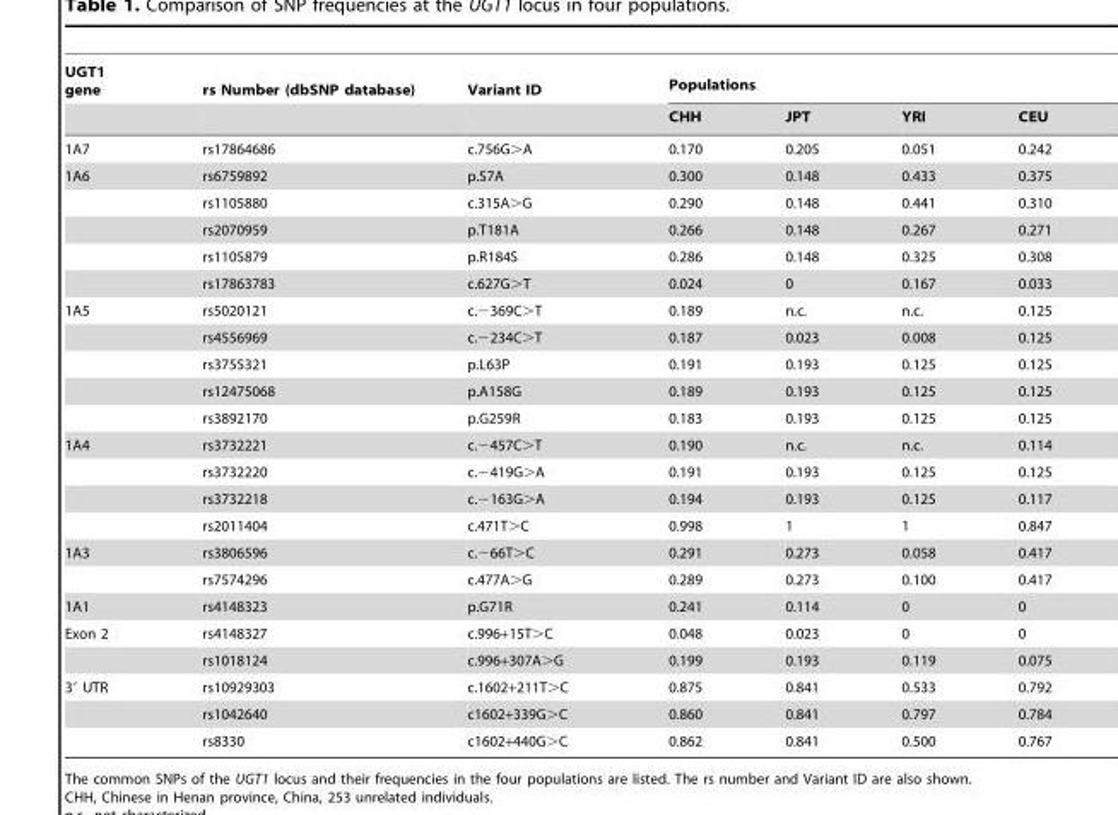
<table><thead><tr><td rowspan="2">UGT1 gene</td><td rowspan="2">rs Number (dbSNP database)</td><td rowspan="2">Variant ID</td><td colspan="4">Populations</td></tr><tr><td>CHH</td><td>JPT</td><td>YRI</td><td>CEU</td></tr></thead><tbody><tr><td>1A7</td><td>rs17864686</td><td>c.756G&gt;A</td><td>0.170</td><td>0.205</td><td>0.051</td><td>0.242</td></tr><tr><td rowspan="5">1A6</td><td>rs6759892</td><td>p.S7A</td><td>0.300</td><td>0.148</td><td>0.433</td><td>0.375</td></tr><tr><td>rs1105880</td><td>c.315A&gt;G</td><td>0.290</td><td>0.148</td><td>0.441</td><td>0.310</td></tr><tr><td>rs2070959</td><td>p.T181A</td><td>0.266</td><td>0.148</td><td>0.267</td><td>0.271</td></tr><tr><td>rs1105879</td><td>p.R184S</td><td>0.286</td><td>0.148</td><td>0.325</td><td>0.308</td></tr><tr><td>rs17863783</td><td>c.627G&gt;T</td><td>0.024</td><td>0</td><td>0.167</td><td>0.033</td></tr><tr><td rowspan="5">1A5</td><td>rs5020121</td><td>c.−369C&gt;T</td><td>0.189</td><td>n.c.</td><td>n.c.</td><td>0.125</td></tr><tr><td>rs4556969</td><td>c.−234C&gt;T</td><td>0.187</td><td>0.023</td><td>0.008</td><td>0.125</td></tr><tr><td>rs3755321</td><td>p.L63P</td><td>0.191</td><td>0.193</td><td>0.125</td><td>0.125</td></tr><tr><td>rs12475068</td><td>p.A158G</td><td>0.189</td><td>0.193</td><td>0.125</td><td>0.125</td></tr><tr><td>rs3892170</td><td>p.G259R</td><td>0.183</td><td>0.193</td><td>0.125</td><td>0.125</td></tr><tr><td rowspan="4">1A4</td><td>rs3732221</td><td>c.−457C&gt;T</td><td>0.190</td><td>n.c.</td><td>n.c.</td><td>0.114</td></tr><tr><td>rs3732220</td><td>c.−419G&gt;A</td><td>0.191</td><td>0.193</td><td>0.125</td><td>0.125</td></tr><tr><td>rs3732218</td><td>c.−163G&gt;A</td><td>0.194</td><td>0.193</td><td>0.125</td><td>0.117</td></tr><tr><td>rs2011404</td><td>c.471T&gt;C</td><td>0.998</td><td>1</td><td>1</td><td>0.847</td></tr><tr><td rowspan="2">1A3</td><td>rs3806596</td><td>c.−66T&gt;C</td><td>0.291</td><td>0.273</td><td>0.058</td><td>0.417</td></tr><tr><td>rs7574296</td><td>c.477A&gt;G</td><td>0.289</td><td>0.273</td><td>0.100</td><td>0.417</td></tr><tr><td>1A1</td><td>rs4148323</td><td>p.G71R</td><td>0.241</td><td>0.114</td><td>0</td><td>0</td></tr><tr><td rowspan="2">Exon 2</td><td>rs4148327</td><td>c.996+15T&gt;C</td><td>0.048</td><td>0.023</td><td>0</td><td>0</td></tr><tr><td>rs1018124</td><td>c.996+307A&gt;G</td><td>0.199</td><td>0.193</td><td>0.119</td><td>0.075</td></tr><tr><td rowspan="3">3′ UTR</td><td>rs10929303</td><td>c.1602+211T&gt;C</td><td>0.875</td><td>0.841</td><td>0.533</td><td>0.792</td></tr><tr><td>rs1042640</td><td>c1602+339G&gt;C</td><td>0.860</td><td>0.841</td><td>0.797</td><td>0.784</td></tr><tr><td>rs8330</td><td>c1602+440G&gt;C</td><td>0.862</td><td>0.841</td><td>0.500</td><td>0.767</td></tr></tbody></table>